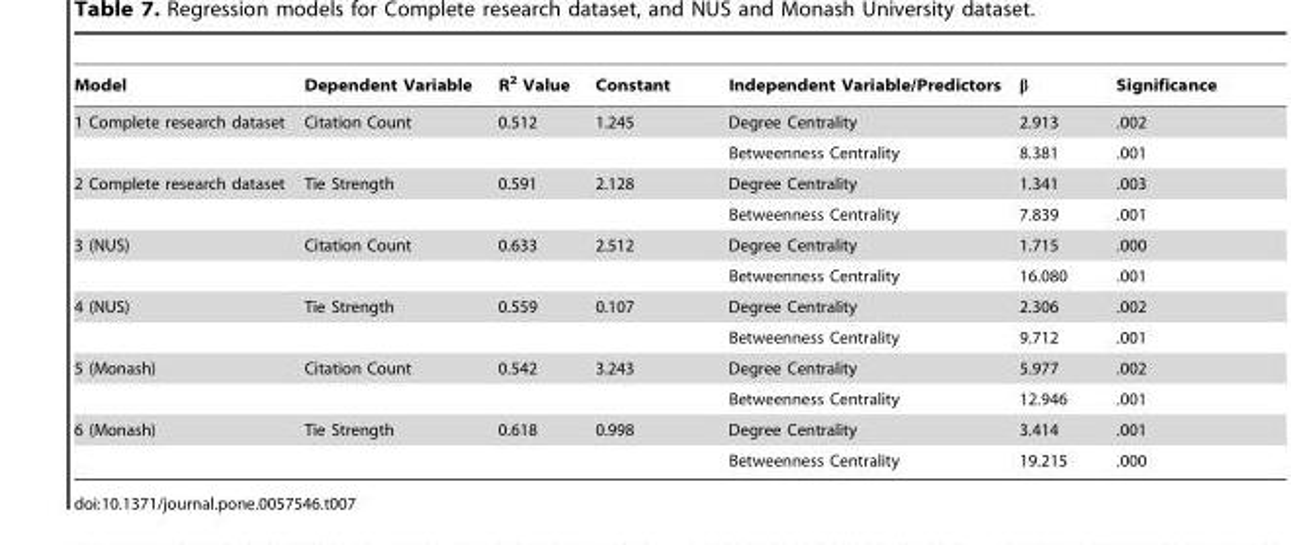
<table><thead><tr><td>Model</td><td>Dependent Variable</td><td>R<sup>2</sup> Value</td><td>Constant</td><td>Independent Variable/Predictors</td><td>β</td><td>Significance</td></tr></thead><tbody><tr><td rowspan="2">1 Complete research dataset</td><td>Citation Count</td><td>0.512</td><td>1.245</td><td>Degree Centrality</td><td>2.913</td><td>.002</td></tr><tr><td></td><td></td><td></td><td>Betweenness Centrality</td><td>8.381</td><td>.001</td></tr><tr><td rowspan="2">2 Complete research dataset</td><td>Tie Strength</td><td>0.591</td><td>2.128</td><td>Degree Centrality</td><td>1.341</td><td>.003</td></tr><tr><td></td><td></td><td></td><td>Betweenness Centrality</td><td>7.839</td><td>.001</td></tr><tr><td rowspan="2">3 (NUS)</td><td>Citation Count</td><td>0.633</td><td>2.512</td><td>Degree Centrality</td><td>1.715</td><td>.000</td></tr><tr><td></td><td></td><td></td><td>Betweenness Centrality</td><td>16.080</td><td>.001</td></tr><tr><td rowspan="2">4 (NUS)</td><td>Tie Strength</td><td>0.559</td><td>0.107</td><td>Degree Centrality</td><td>2.306</td><td>.002</td></tr><tr><td></td><td></td><td></td><td>Betweenness Centrality</td><td>9.712</td><td>.001</td></tr><tr><td rowspan="2">5 (Monash)</td><td>Citation Count</td><td>0.542</td><td>3.243</td><td>Degree Centrality</td><td>5.977</td><td>.002</td></tr><tr><td></td><td></td><td></td><td>Betweenness Centrality</td><td>12.946</td><td>.001</td></tr><tr><td rowspan="2">6 (Monash)</td><td>Tie Strength</td><td>0.618</td><td>0.998</td><td>Degree Centrality</td><td>3.414</td><td>.001</td></tr><tr><td></td><td></td><td></td><td>Betweenness Centrality</td><td>19.215</td><td>.000</td></tr></tbody></table>